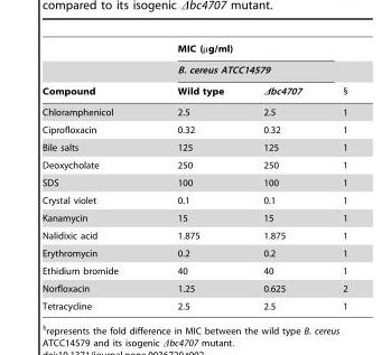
<table><thead><tr><td rowspan="3">Compound</td><td rowspan="2" colspan="2">MIC (µg/ml) B. cereus ATCC14579</td><td rowspan="3">§</td></tr><tr></tr><tr><td>Wild type</td><td>Δbc4707</td></tr></thead><tbody><tr><td>Chloramphenicol</td><td>2.5</td><td>2.5</td><td>1</td></tr><tr><td>Ciprofloxacin</td><td>0.32</td><td>0.32</td><td>1</td></tr><tr><td>Bile salts</td><td>125</td><td>125</td><td>1</td></tr><tr><td>Deoxycholate</td><td>250</td><td>250</td><td>1</td></tr><tr><td>SDS</td><td>100</td><td>100</td><td>1</td></tr><tr><td>Crystal violet</td><td>0.1</td><td>0.1</td><td>1</td></tr><tr><td>Kanamycin</td><td>15</td><td>15</td><td>1</td></tr><tr><td>Nalidixic acid</td><td>1.875</td><td>1.875</td><td>1</td></tr><tr><td>Erythromycin</td><td>0.2</td><td>0.2</td><td>1</td></tr><tr><td>Ethidium bromide</td><td>40</td><td>40</td><td>1</td></tr><tr><td>Norfloxacin</td><td>1.25</td><td>0.625</td><td>2</td></tr><tr><td>Tetracycline</td><td>2.5</td><td>2.5</td><td>1</td></tr></tbody></table>